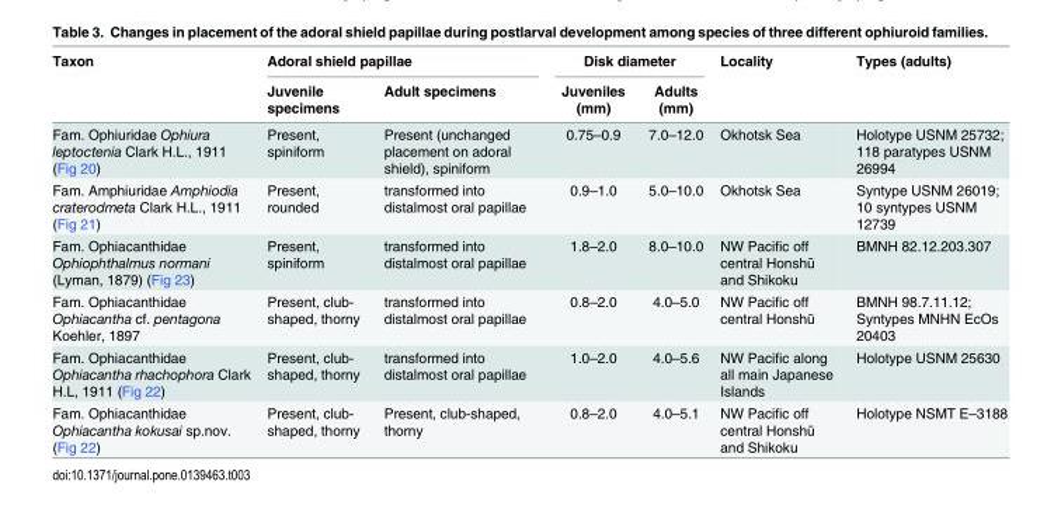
<table><thead><tr><td rowspan="2">Taxon</td><td colspan="2">Adoral shield papillae</td><td colspan="2">Disk diameter</td><td rowspan="2">Locality</td><td rowspan="2">Types (adults)</td></tr><tr><td>Juvenile specimens</td><td>Adult specimens</td><td>Juveniles (mm)</td><td>Adults (mm)</td></tr></thead><tbody><tr><td>Fam. Ophiuridae Ophiura leptoctenia Clark H.L., 1911 (Fig 20)</td><td>Present, spiniform</td><td>Present (unchanged placement on adoral shield), spiniform</td><td>0.75–0.9</td><td>7.0–12.0</td><td>Okhotsk Sea</td><td>Holotype USNM 25732; 118 paratypes USNM 26994</td></tr><tr><td>Fam. Amphiuridae Amphiodia craterodmeta Clark H.L., 1911 (Fig 21)</td><td>Present, rounded</td><td>transformed into distalmost oral papillae</td><td>0.9–1.0</td><td>5.0–10.0</td><td>Okhotsk Sea</td><td>Syntype USNM 26019; 10 syntypes USNM 12739</td></tr><tr><td>Fam. Ophiacanthidae Ophiophthalmus normani (Lyman, 1879) (Fig 23)</td><td>Present, spiniform</td><td>transformed into distalmost oral papillae</td><td>1.8–2.0</td><td>8.0–10.0</td><td>NW Pacific off central Honshū and Shikoku</td><td>BMNH 82.12.203.307</td></tr><tr><td>Fam. Ophiacanthidae Ophiacantha cf. pentagona Koehler, 1897</td><td>Present, club- shaped, thorny</td><td>transformed into distalmost oral papillae</td><td>0.8–2.0</td><td>4.0–5.0</td><td>NW Pacific off central Honshū</td><td>BMNH 98.7.11.12; Syntypes MNHN EcOs 20403</td></tr><tr><td>Fam. Ophiacanthidae Ophiacantha rhachophora Clark H.L, 1911 (Fig 22)</td><td>Present, club- shaped, thorny</td><td>transformed into distalmost oral papillae</td><td>1.0–2.0</td><td>4.0–5.6</td><td>NW Pacific along all main Japanese Islands</td><td>Holotype USNM 25630</td></tr><tr><td>Fam. Ophiacanthidae Ophiacantha kokusai sp.nov. (Fig 22)</td><td>Present, club- shaped, thorny</td><td>Present, club-shaped, thorny</td><td>0.8–2.0</td><td>4.0–5.1</td><td>NW Pacific off central Honshū and Shikoku</td><td>Holotype NSMT E–3188</td></tr></tbody></table>